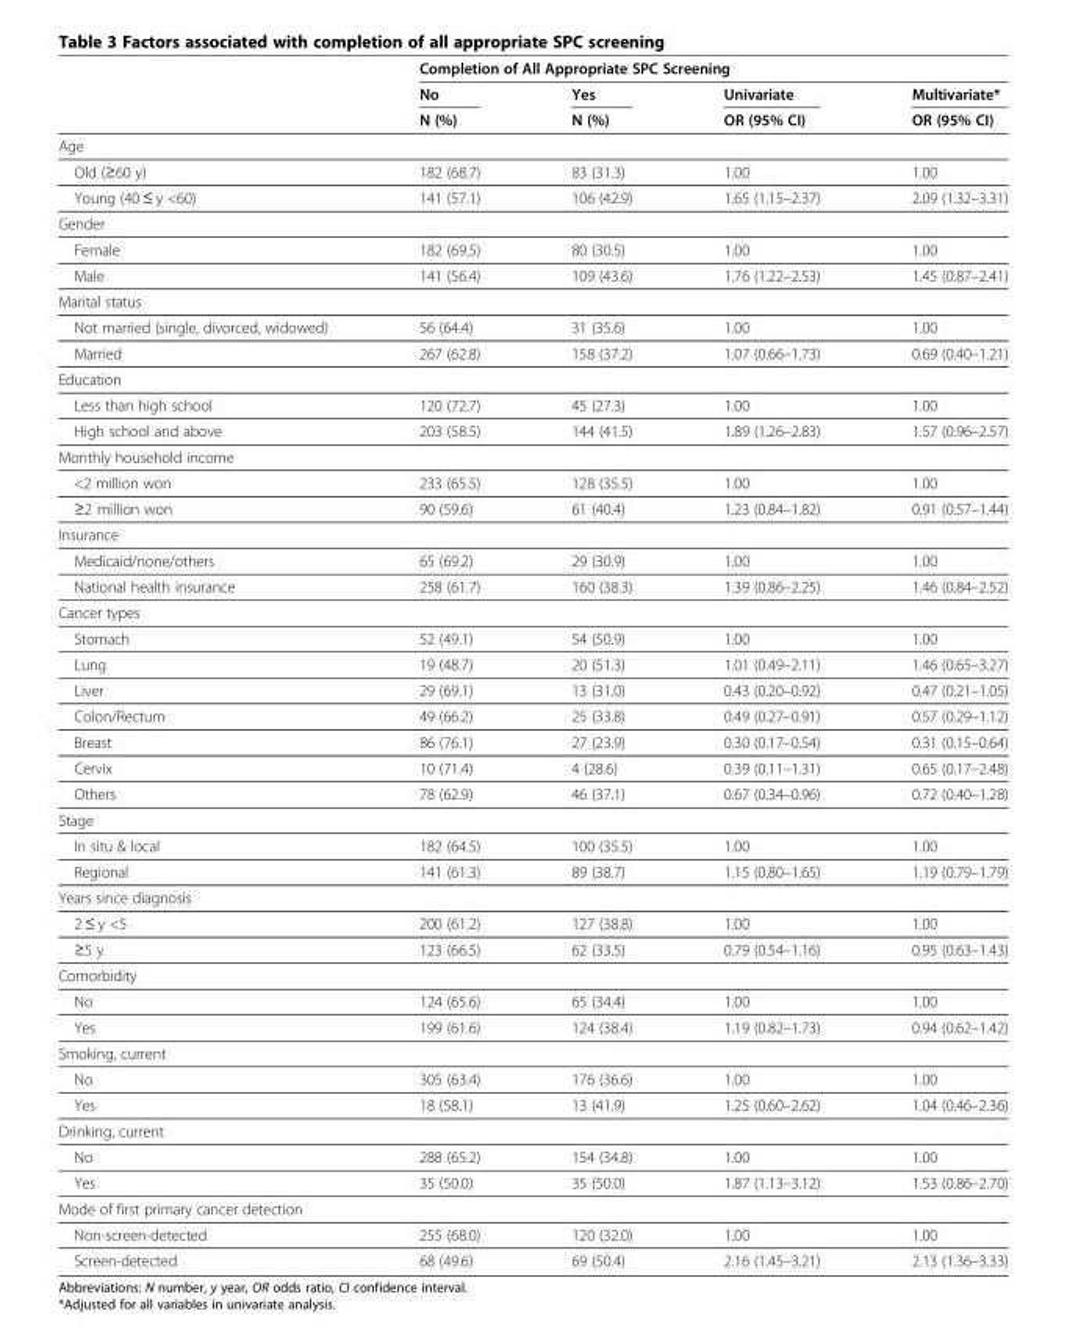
<table><thead><tr><td rowspan="3"></td><td colspan="4">Completion of All Appropriate SPC Screening</td></tr><tr><td rowspan="2">No N (%)</td><td rowspan="2">Yes N (%)</td><td rowspan="2">Univariate OR (95% CI)</td><td rowspan="2">Multivariate* OR (95% CI)</td></tr><tr></tr></thead><tbody><tr><td colspan="5">Age</td></tr><tr><td>Old (≥60 y)</td><td>182 (68.7)</td><td>83 (31.3)</td><td>1.00</td><td>1.00</td></tr><tr><td>Young (40 ≤ y &lt;60)</td><td>141 (57.1)</td><td>106 (42.9)</td><td>1.65 (1.15–2.37)</td><td>2.09 (1.32–3.31)</td></tr><tr><td colspan="5">Gender</td></tr><tr><td>Female</td><td>182 (69.5)</td><td>80 (30.5)</td><td>1.00</td><td>1.00</td></tr><tr><td>Male</td><td>141 (56.4)</td><td>109 (43.6)</td><td>1.76 (1.22–2.53)</td><td>1.45 (0.87–2.41)</td></tr><tr><td colspan="5">Marital status</td></tr><tr><td>Not married (single, divorced, widowed)</td><td>56 (64.4)</td><td>31 (35.6)</td><td>1.00</td><td>1.00</td></tr><tr><td>Married</td><td>267 (62.8)</td><td>158 (37.2)</td><td>1.07 (0.66–1.73)</td><td>0.69 (0.40–1.21)</td></tr><tr><td colspan="5">Education</td></tr><tr><td>Less than high school</td><td>120 (72.7)</td><td>45 (27.3)</td><td>1.00</td><td>1.00</td></tr><tr><td>High school and above</td><td>203 (58.5)</td><td>144 (41.5)</td><td>1.89 (1.26–2.83)</td><td>1.57 (0.96–2.57)</td></tr><tr><td colspan="5">Monthly household income</td></tr><tr><td>&lt;2 million won</td><td>233 (65.5)</td><td>128 (35.5)</td><td>1.00</td><td>1.00</td></tr><tr><td>≥2 million won</td><td>90 (59.6)</td><td>61 (40.4)</td><td>1.23 (0.84–1.82)</td><td>0.91 (0.57–1.44)</td></tr><tr><td colspan="5">Insurance</td></tr><tr><td>Medicaid/none/others</td><td>65 (69.2)</td><td>29 (30.9)</td><td>1.00</td><td>1.00</td></tr><tr><td>National health insurance</td><td>258 (61.7)</td><td>160 (38.3)</td><td>1.39 (0.86–2.25)</td><td>1.46 (0.84–2.52)</td></tr><tr><td colspan="5">Cancer types</td></tr><tr><td>Stomach</td><td>52 (49.1)</td><td>54 (50.9)</td><td>1.00</td><td>1.00</td></tr><tr><td>Lung</td><td>19 (48.7)</td><td>20 (51.3)</td><td>1.01 (0.49–2.11)</td><td>1.46 (0.65–3.27)</td></tr><tr><td>Liver</td><td>29 (69.1)</td><td>13 (31.0)</td><td>0.43 (0.20–0.92)</td><td>0.47 (0.21–1.05)</td></tr><tr><td>Colon/Rectum</td><td>49 (66.2)</td><td>25 (33.8)</td><td>0.49 (0.27–0.91)</td><td>0.57 (0.29–1.12)</td></tr><tr><td>Breast</td><td>86 (76.1)</td><td>27 (23.9)</td><td>0.30 (0.17–0.54)</td><td>0.31 (0.15–0.64)</td></tr><tr><td>Cervix</td><td>10 (71.4)</td><td>4 (28.6)</td><td>0.39 (0.11–1.31)</td><td>0.65 (0.17–2.48)</td></tr><tr><td>Others</td><td>78 (62.9)</td><td>46 (37.1)</td><td>0.67 (0.34–0.96)</td><td>0.72 (0.40–1.28)</td></tr><tr><td colspan="5">Stage</td></tr><tr><td>In situ &amp; local</td><td>182 (64.5)</td><td>100 (35.5)</td><td>1.00</td><td>1.00</td></tr><tr><td>Regional</td><td>141 (61.3)</td><td>89 (38.7)</td><td>1.15 (0.80–1.65)</td><td>1.19 (0.79–1.79)</td></tr><tr><td colspan="5">Years since diagnosis</td></tr><tr><td>2 ≤ y &lt;5</td><td>200 (61.2)</td><td>127 (38.8)</td><td>1.00</td><td>1.00</td></tr><tr><td>≥5 y</td><td>123 (66.5)</td><td>62 (33.5)</td><td>0.79 (0.54–1.16)</td><td>0.95 (0.63–1.43)</td></tr><tr><td colspan="5">Comorbidity</td></tr><tr><td>No</td><td>124 (65.6)</td><td>65 (34.4)</td><td>1.00</td><td>1.00</td></tr><tr><td>Yes</td><td>199 (61.6)</td><td>124 (38.4)</td><td>1.19 (0.82–1.73)</td><td>0.94 (0.62–1.42)</td></tr><tr><td colspan="5">Smoking, current</td></tr><tr><td>No</td><td>305 (63.4)</td><td>176 (36.6)</td><td>1.00</td><td>1.00</td></tr><tr><td>Yes</td><td>18 (58.1)</td><td>13 (41.9)</td><td>1.25 (0.60–2.62)</td><td>1.04 (0.46–2.36)</td></tr><tr><td colspan="5">Drinking, current</td></tr><tr><td>No</td><td>288 (65.2)</td><td>154 (34.8)</td><td>1.00</td><td>1.00</td></tr><tr><td>Yes</td><td>35 (50.0)</td><td>35 (50.0)</td><td>1.87 (1.13–3.12)</td><td>1.53 (0.86–2.70)</td></tr><tr><td colspan="5">Mode of first primary cancer detection</td></tr><tr><td>Non-screen-detected</td><td>255 (68.0)</td><td>120 (32.0)</td><td>1.00</td><td>1.00</td></tr><tr><td>Screen-detected</td><td>68 (49.6)</td><td>69 (50.4)</td><td>2.16 (1.45–3.21)</td><td>2.13 (1.36–3.33)</td></tr></tbody></table>